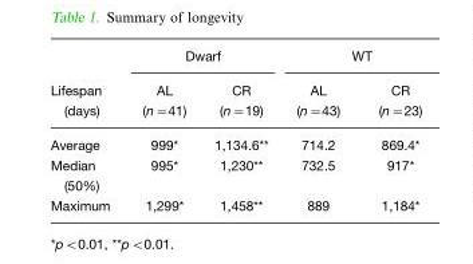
<table><thead><tr><td rowspan="2">Lifespan (days)</td><td colspan="2">Dwarf</td><td colspan="2">WT</td></tr><tr><td>AL (n=41)</td><td>CR (n=19)</td><td>AL (n=43)</td><td>CR (n=23)</td></tr></thead><tbody><tr><td>Average</td><td>999*</td><td>1,134.6**</td><td>714.2</td><td>869.4*</td></tr><tr><td>Median (50%)</td><td>995*</td><td>1,230**</td><td>732.5</td><td>917*</td></tr><tr><td>Maximum</td><td>1,299*</td><td>1,458**</td><td>889</td><td>1,184*</td></tr></tbody></table>